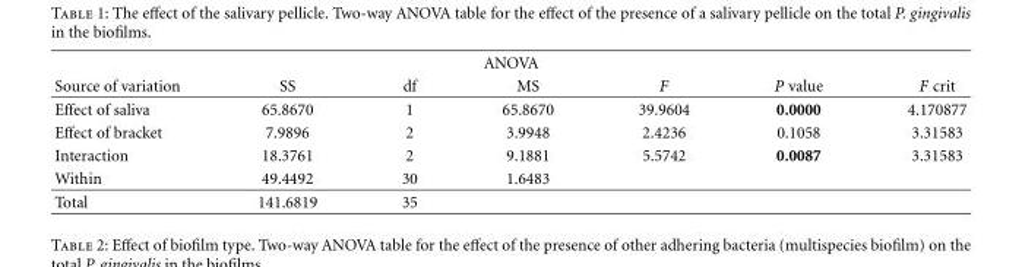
<table><thead><tr><td colspan="7">ANOVA</td></tr><tr><td>Source of variation</td><td>SS</td><td>df</td><td>MS</td><td>F</td><td>P value</td><td>F crit</td></tr></thead><tbody><tr><td>Effect of saliva</td><td>65.8670</td><td>1</td><td>65.8670</td><td>39.9604</td><td>0.0000</td><td>4.170877</td></tr><tr><td>Effect of bracket</td><td>7.9896</td><td>2</td><td>3.9948</td><td>2.4236</td><td>0.1058</td><td>3.31583</td></tr><tr><td>Interaction</td><td>18.3761</td><td>2</td><td>9.1881</td><td>5.5742</td><td>0.0087</td><td>3.31583</td></tr><tr><td>Within</td><td>49.4492</td><td>30</td><td>1.6483</td><td></td><td></td><td></td></tr><tr><td>Total</td><td>141.6819</td><td>35</td><td></td><td></td><td></td><td></td></tr></tbody></table>